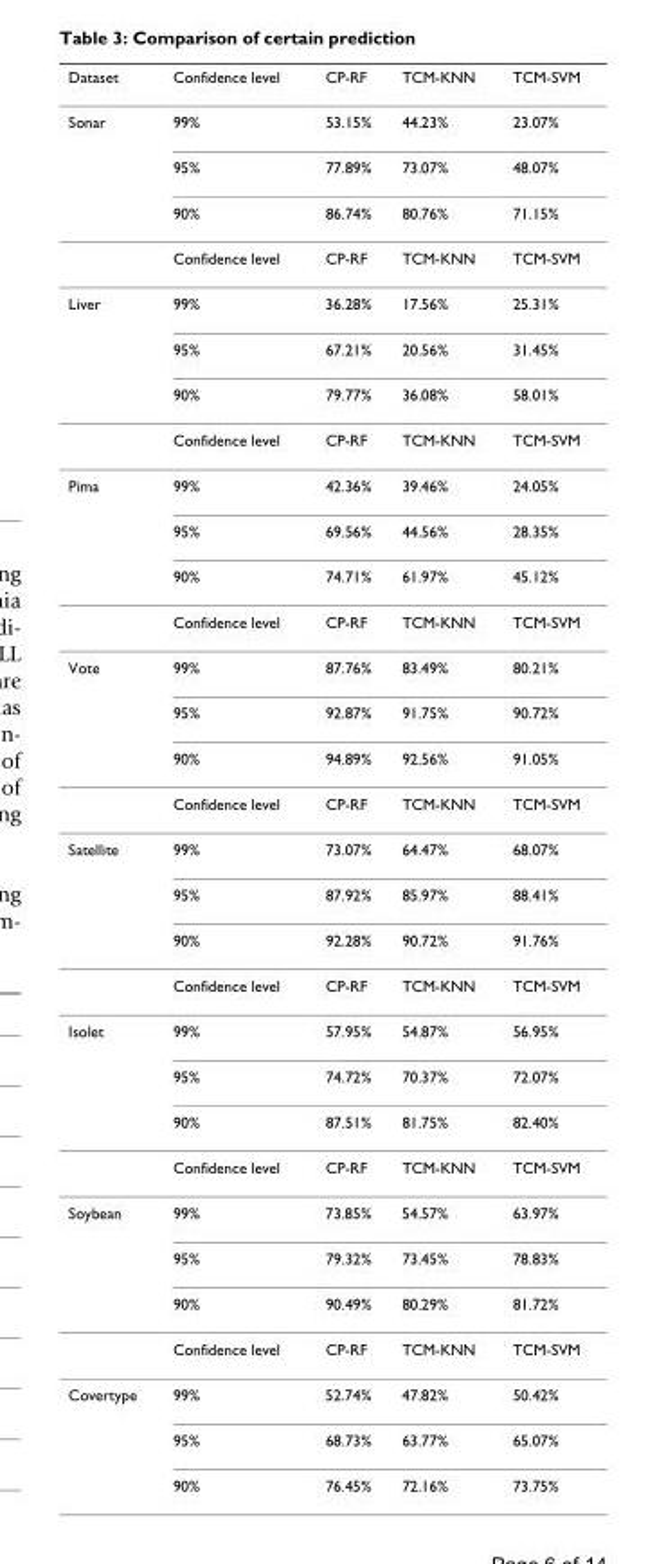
<table><thead><tr><td>Dataset</td><td>Confidence level</td><td>CP-RF</td><td>TCM-KNN</td><td>TCM-SVM</td></tr></thead><tbody><tr><td rowspan="4">Sonar</td><td>99%</td><td>53.15%</td><td>44.23%</td><td>23.07%</td></tr><tr><td>95%</td><td>77.89%</td><td>73.07%</td><td>48.07%</td></tr><tr><td>90%</td><td>86.74%</td><td>80.76%</td><td>71.15%</td></tr><tr><td>Confidence level</td><td>CP-RF</td><td>TCM-KNN</td><td>TCM-SVM</td></tr><tr><td rowspan="4">Liver</td><td>99%</td><td>36.28%</td><td>17.56%</td><td>25.31%</td></tr><tr><td>95%</td><td>67.21%</td><td>20.56%</td><td>31.45%</td></tr><tr><td>90%</td><td>79.77%</td><td>36.08%</td><td>58.01%</td></tr><tr><td>Confidence level</td><td>CP-RF</td><td>TCM-KNN</td><td>TCM-SVM</td></tr><tr><td rowspan="4">Pima</td><td>99%</td><td>42.36%</td><td>39.46%</td><td>24.05%</td></tr><tr><td>95%</td><td>69.56%</td><td>44.56%</td><td>28.35%</td></tr><tr><td>90%</td><td>74.71%</td><td>61.97%</td><td>45.12%</td></tr><tr><td>Confidence level</td><td>CP-RF</td><td>TCM-KNN</td><td>TCM-SVM</td></tr><tr><td rowspan="4">Vote</td><td>99%</td><td>87.76%</td><td>83.49%</td><td>80.21%</td></tr><tr><td>95%</td><td>92.87%</td><td>91.75%</td><td>90.72%</td></tr><tr><td>90%</td><td>94.89%</td><td>92.56%</td><td>91.05%</td></tr><tr><td>Confidence level</td><td>CP-RF</td><td>TCM-KNN</td><td>TCM-SVM</td></tr><tr><td rowspan="4">Satellite</td><td>99%</td><td>73.07%</td><td>64.47%</td><td>68.07%</td></tr><tr><td>95%</td><td>87.92%</td><td>85.97%</td><td>88.41%</td></tr><tr><td>90%</td><td>92.28%</td><td>90.72%</td><td>91.76%</td></tr><tr><td>Confidence level</td><td>CP-RF</td><td>TCM-KNN</td><td>TCM-SVM</td></tr><tr><td rowspan="4">Isolet</td><td>99%</td><td>57.95%</td><td>54.87%</td><td>56.95%</td></tr><tr><td>95%</td><td>74.72%</td><td>70.37%</td><td>72.07%</td></tr><tr><td>90%</td><td>87.51%</td><td>81.75%</td><td>82.40%</td></tr><tr><td>Confidence level</td><td>CP-RF</td><td>TCM-KNN</td><td>TCM-SVM</td></tr><tr><td rowspan="4">Soybean</td><td>99%</td><td>73.85%</td><td>54.57%</td><td>63.97%</td></tr><tr><td>95%</td><td>79.32%</td><td>73.45%</td><td>78.83%</td></tr><tr><td>90%</td><td>90.49%</td><td>80.29%</td><td>81.72%</td></tr><tr><td>Confidence level</td><td>CP-RF</td><td>TCM-KNN</td><td>TCM-SVM</td></tr><tr><td rowspan="3">Covertype</td><td>99%</td><td>52.74%</td><td>47.82%</td><td>50.42%</td></tr><tr><td>95%</td><td>68.73%</td><td>63.77%</td><td>65.07%</td></tr><tr><td>90%</td><td>76.45%</td><td>72.16%</td><td>73.75%</td></tr></tbody></table>